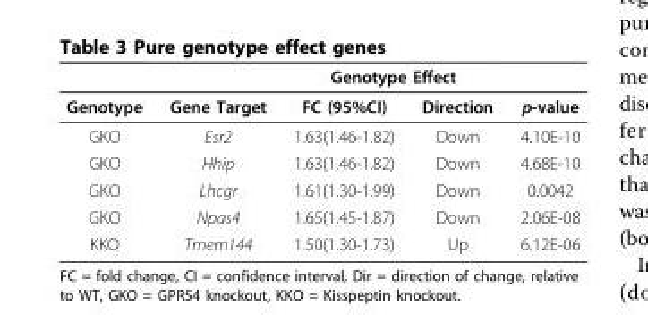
<table><thead><tr><td rowspan="2">Genotype</td><td rowspan="2">Gene Target</td><td colspan="2">Genotype Effect</td><td rowspan="2">p-value</td></tr><tr><td>FC (95%CI)</td><td>Direction</td></tr></thead><tbody><tr><td>GKO</td><td>Esr2</td><td>1.63(1.46-1.82)</td><td>Down</td><td>4.10E-10</td></tr><tr><td>GKO</td><td>Hhip</td><td>1.63(1.46-1.82)</td><td>Down</td><td>4.68E-10</td></tr><tr><td>GKO</td><td>Lhcgr</td><td>1.61(1.30-1.99)</td><td>Down</td><td>0.0042</td></tr><tr><td>GKO</td><td>Npas4</td><td>1.65(1.45-1.87)</td><td>Down</td><td>2.06E-08</td></tr><tr><td>KKO</td><td>Tmem144</td><td>1.50(1.30-1.73)</td><td>Up</td><td>6.12E-06</td></tr></tbody></table>